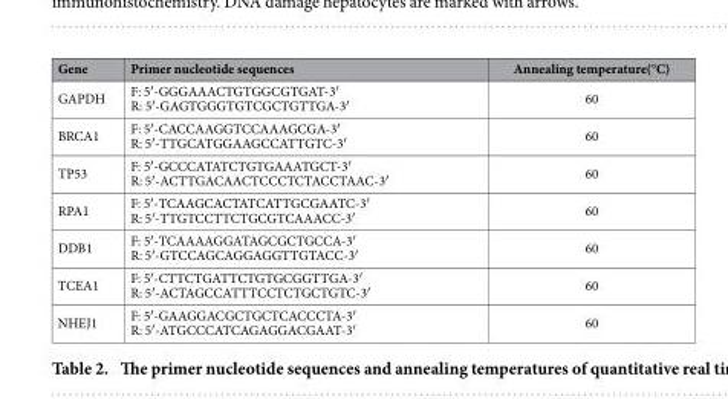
<table><thead><tr><td>Gene</td><td>Primer nucleotide sequences</td><td>Annealing temperature(°C)</td></tr></thead><tbody><tr><td>GAPDH</td><td>F: 5′-GGGAAACTGTGGCGTGAT-3′ R: 5′-GAGTGGGTGTCGCTGTTGA-3′</td><td>60</td></tr><tr><td>BRCA1</td><td>F: 5′-CACCAAGGTCCAAAGCGA-3′ R: 5′-TTGCATGGAAGCCATTGTC-3′</td><td>60</td></tr><tr><td>TP53</td><td>F: 5′-GCCCATATCTGTGAAATGCT-3′ R: 5′-ACTTGACAACTCCCTCTACCTAAC-3′</td><td>60</td></tr><tr><td>RPA1</td><td>F: 5′-TCAAGCACTATCATTGCGAATC-3′ R: 5′-TTGTCCTTCTGCGTCAAACC-3′</td><td>60</td></tr><tr><td>DDB1</td><td>F: 5′-TCAAAAGGATAGCGCTGCCA-3′ R: 5′-GTCCAGCAGGAGGTTGTACC-3′</td><td>60</td></tr><tr><td>TCEA1</td><td>F: 5′-CTTCTGATTCTGTGCGGTTGA-3′ R: 5′-ACTAGCCATTTCCTCTGCTGTC-3′</td><td>60</td></tr><tr><td>NHEJ1</td><td>F: 5′-GAAGGACGCTGCTCACCCTA-3′ R: 5′-ATGCCCATCAGAGGACGAAT-3′</td><td>60</td></tr></tbody></table>